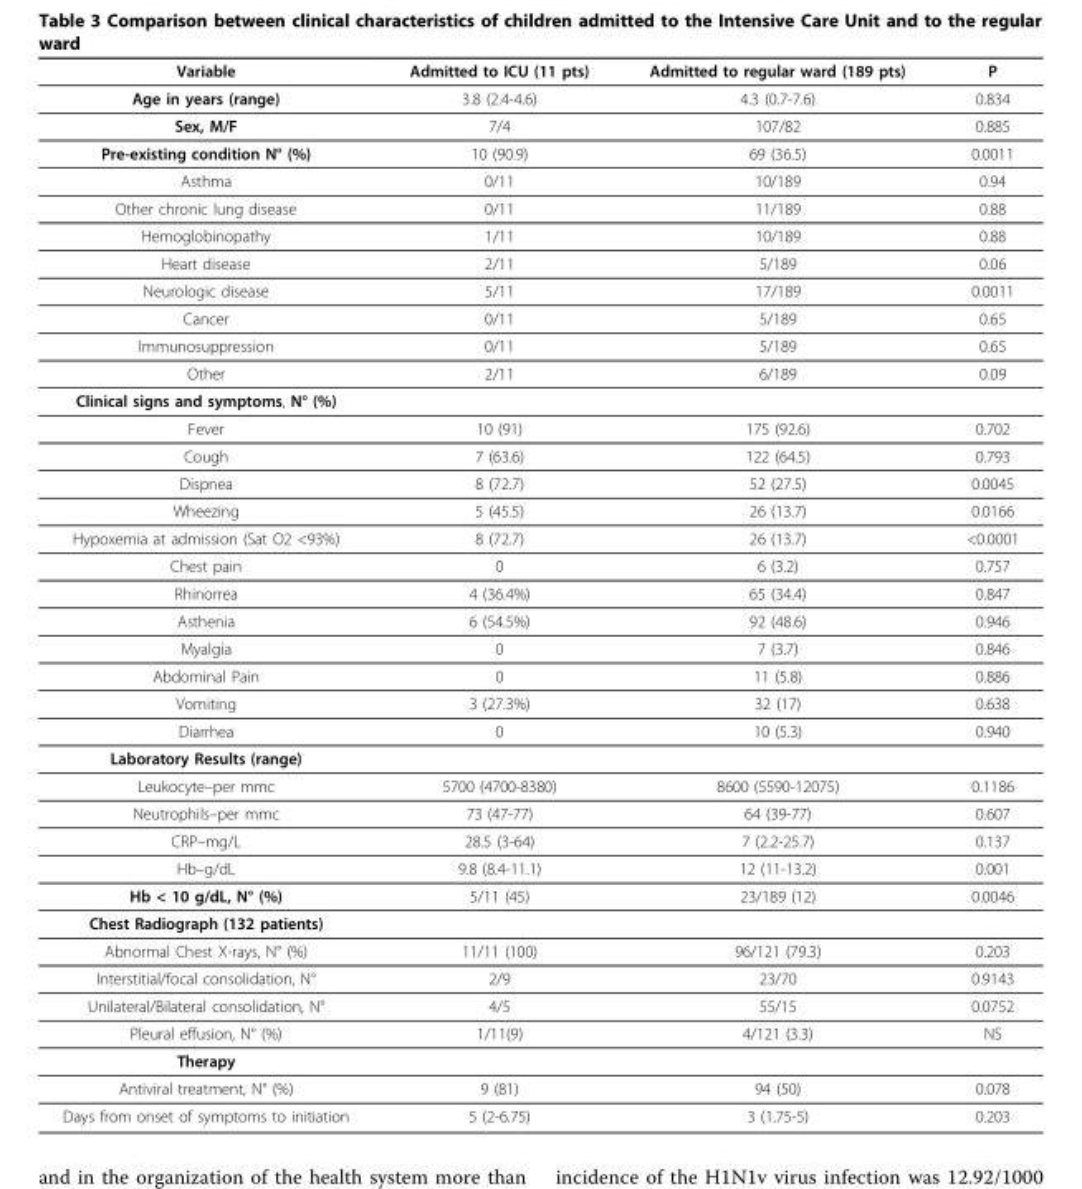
<table><thead><tr><td>Variable</td><td>Admitted to ICU (11 pts)</td><td>Admitted to regular ward (189 pts)</td><td>P</td></tr></thead><tbody><tr><td>Age in years (range)</td><td>3.8 (2.4-4.6)</td><td>4.3 (0.7-7.6)</td><td>0.834</td></tr><tr><td>Sex, M/F</td><td>7/4</td><td>107/82</td><td>0.885</td></tr><tr><td>Pre-existing condition N° (%)</td><td>10 (90.9)</td><td>69 (36.5)</td><td>0.0011</td></tr><tr><td>Asthma</td><td>0/11</td><td>10/189</td><td>0.94</td></tr><tr><td>Other chronic lung disease</td><td>0/11</td><td>11/189</td><td>0.88</td></tr><tr><td>Hemoglobinopathy</td><td>1/11</td><td>10/189</td><td>0.88</td></tr><tr><td>Heart disease</td><td>2/11</td><td>5/189</td><td>0.06</td></tr><tr><td>Neurologic disease</td><td>5/11</td><td>17/189</td><td>0.0011</td></tr><tr><td>Cancer</td><td>0/11</td><td>5/189</td><td>0.65</td></tr><tr><td>Immunosuppression</td><td>0/11</td><td>5/189</td><td>0.65</td></tr><tr><td>Other</td><td>2/11</td><td>6/189</td><td>0.09</td></tr><tr><td colspan="4">Clinical signs and symptoms, N° (%)</td></tr><tr><td>Fever</td><td>10 (91)</td><td>175 (92.6)</td><td>0.702</td></tr><tr><td>Cough</td><td>7 (63.6)</td><td>122 (64.5)</td><td>0.793</td></tr><tr><td>Dispnea</td><td>8 (72.7)</td><td>52 (27.5)</td><td>0.0045</td></tr><tr><td>Wheezing</td><td>5 (45.5)</td><td>26 (13.7)</td><td>0.0166</td></tr><tr><td>Hypoxemia at admission (Sat O2 &lt;93%)</td><td>8 (72.7)</td><td>26 (13.7)</td><td>&lt;0.0001</td></tr><tr><td>Chest pain</td><td>0</td><td>6 (3.2)</td><td>0.757</td></tr><tr><td>Rhinorrea</td><td>4 (36.4%)</td><td>65 (34.4)</td><td>0.847</td></tr><tr><td>Asthenia</td><td>6 (54.5%)</td><td>92 (48.6)</td><td>0.946</td></tr><tr><td>Myalgia</td><td>0</td><td>7 (3.7)</td><td>0.846</td></tr><tr><td>Abdominal Pain</td><td>0</td><td>11 (5.8)</td><td>0.886</td></tr><tr><td>Vomiting</td><td>3 (27.3%)</td><td>32 (17)</td><td>0.638</td></tr><tr><td>Diarrhea</td><td>0</td><td>10 (5.3)</td><td>0.940</td></tr><tr><td colspan="4">Laboratory Results (range)</td></tr><tr><td>Leukocyte–per mmc</td><td>5700 (4700-8380)</td><td>8600 (5590-12075)</td><td>0.1186</td></tr><tr><td>Neutrophils–per mmc</td><td>73 (47-77)</td><td>64 (39-77)</td><td>0.607</td></tr><tr><td>CRP–mg/L</td><td>28.5 (3-64)</td><td>7 (2.2-25.7)</td><td>0.137</td></tr><tr><td>Hb–g/dL</td><td>9.8 (8.4-11.1)</td><td>12 (11-13.2)</td><td>0.001</td></tr><tr><td>Hb &lt; 10 g/dL, N° (%)</td><td>5/11 (45)</td><td>23/189 (12)</td><td>0.0046</td></tr><tr><td colspan="4">Chest Radiograph (132 patients)</td></tr><tr><td>Abnormal Chest X-rays, N° (%)</td><td>11/11 (100)</td><td>96/121 (79.3)</td><td>0.203</td></tr><tr><td>Interstitial/focal consolidation, N°</td><td>2/9</td><td>23/70</td><td>0.9143</td></tr><tr><td>Unilateral/Bilateral consolidation, N°</td><td>4/5</td><td>55/15</td><td>0.0752</td></tr><tr><td>Pleural effusion, N° (%)</td><td>1/11(9)</td><td>4/121 (3.3)</td><td>NS</td></tr><tr><td colspan="4">Therapy</td></tr><tr><td>Antiviral treatment, N° (%)</td><td>9 (81)</td><td>94 (50)</td><td>0.078</td></tr><tr><td>Days from onset of symptoms to initiation</td><td>5 (2-6.75)</td><td>3 (1.75-5)</td><td>0.203</td></tr></tbody></table>